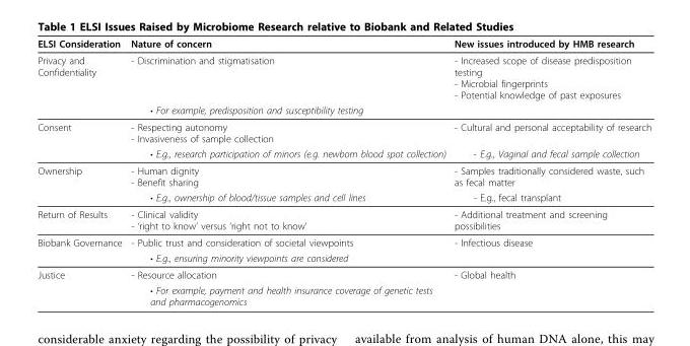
<table><thead><tr><td>ELSI Consideration</td><td>Nature of concern</td><td>New issues introduced by HMB research</td></tr></thead><tbody><tr><td rowspan="2">Privacy and Confidentiality</td><td>- Discrimination and stigmatisation</td><td>- Increased scope of disease predisposition testing - Microbial fingerprints - Potential knowledge of past exposures</td></tr><tr><td>• For example, predisposition and susceptibility testing</td><td></td></tr><tr><td rowspan="2">Consent</td><td>- Respecting autonomy - Invasiveness of sample collection</td><td>- Cultural and personal acceptability of research</td></tr><tr><td>• E.g., research participation of minors (e.g. newborn blood spot collection)</td><td>- E.g., Vaginal and fecal sample collection</td></tr><tr><td rowspan="2">Ownership</td><td>- Human dignity - Benefit sharing</td><td>- Samples traditionally considered waste, such as fecal matter</td></tr><tr><td>• E.g., ownership of blood/tissue samples and cell lines</td><td>- E.g., fecal transplant</td></tr><tr><td>Return of Results</td><td>- Clinical validity - ‘right to know’ versus ‘right not to know’</td><td>- Additional treatment and screening possibilities</td></tr><tr><td rowspan="2">Biobank Governance</td><td>- Public trust and consideration of societal viewpoints</td><td>- Infectious disease</td></tr><tr><td>• E.g., ensuring minority viewpoints are considered</td><td></td></tr><tr><td rowspan="2">Justice</td><td>- Resource allocation</td><td>- Global health</td></tr><tr><td>• For example, payment and health insurance coverage of genetic tests and pharmacogenomics</td><td></td></tr></tbody></table>